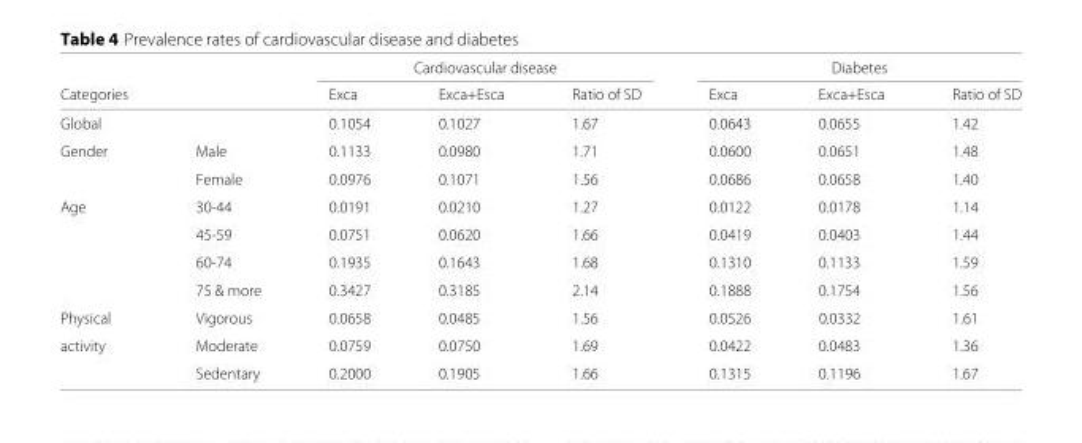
<table><thead><tr><td rowspan="2">Categories</td><td rowspan="2"></td><td colspan="3">Cardiovascular disease</td><td colspan="3">Diabetes</td></tr><tr><td>Exca</td><td>Exca+Esca</td><td>Ratio of SD</td><td>Exca</td><td>Exca+Esca</td><td>Ratio of SD</td></tr></thead><tbody><tr><td>Global</td><td></td><td>0.1054</td><td>0.1027</td><td>1.67</td><td>0.0643</td><td>0.0655</td><td>1.42</td></tr><tr><td rowspan="2">Gender</td><td>Male</td><td>0.1133</td><td>0.0980</td><td>1.71</td><td>0.0600</td><td>0.0651</td><td>1.48</td></tr><tr><td>Female</td><td>0.0976</td><td>0.1071</td><td>1.56</td><td>0.0686</td><td>0.0658</td><td>1.40</td></tr><tr><td rowspan="4">Age</td><td>30-44</td><td>0.0191</td><td>0.0210</td><td>1.27</td><td>0.0122</td><td>0.0178</td><td>1.14</td></tr><tr><td>45-59</td><td>0.0751</td><td>0.0620</td><td>1.66</td><td>0.0419</td><td>0.0403</td><td>1.44</td></tr><tr><td>60-74</td><td>0.1935</td><td>0.1643</td><td>1.68</td><td>0.1310</td><td>0.1133</td><td>1.59</td></tr><tr><td>75 &amp; more</td><td>0.3427</td><td>0.3185</td><td>2.14</td><td>0.1888</td><td>0.1754</td><td>1.56</td></tr><tr><td>Physical</td><td>Vigorous</td><td>0.0658</td><td>0.0485</td><td>1.56</td><td>0.0526</td><td>0.0332</td><td>1.61</td></tr><tr><td rowspan="2">activity</td><td>Moderate</td><td>0.0759</td><td>0.0750</td><td>1.69</td><td>0.0422</td><td>0.0483</td><td>1.36</td></tr><tr><td>Sedentary</td><td>0.2000</td><td>0.1905</td><td>1.66</td><td>0.1315</td><td>0.1196</td><td>1.67</td></tr></tbody></table>